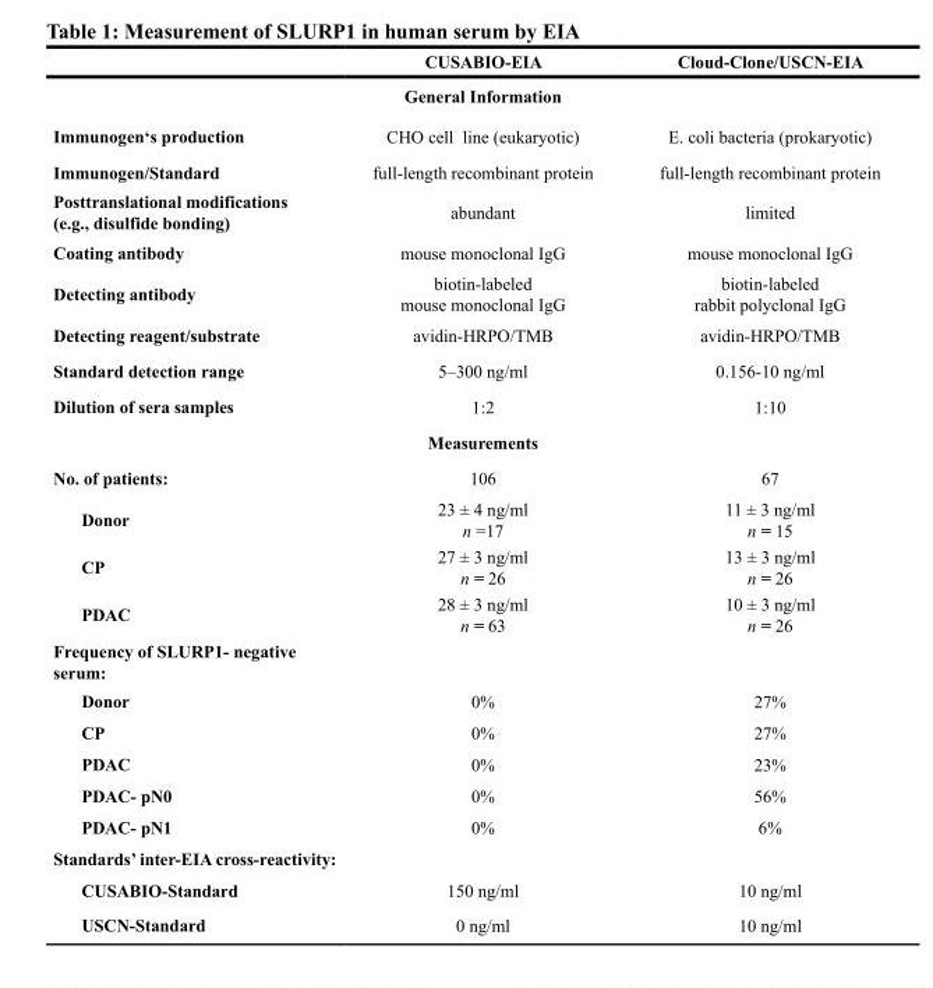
<table><thead><tr><td></td><td>CUSABIO-EIA</td><td>Cloud-Clone/USCN-EIA</td></tr></thead><tbody><tr><td></td><td>General Information</td><td></td></tr><tr><td>Immunogen‘s production</td><td>CHO cell line (eukaryotic)</td><td>E. coli bacteria (prokaryotic)</td></tr><tr><td>Immunogen/Standard</td><td>full-length recombinant protein</td><td>full-length recombinant protein</td></tr><tr><td>Posttranslational modifications (e.g., disulfide bonding)</td><td>abundant</td><td>limited</td></tr><tr><td>Coating antibody</td><td>mouse monoclonal IgG</td><td>mouse monoclonal IgG</td></tr><tr><td>Detecting antibody</td><td>biotin-labeled mouse monoclonal IgG</td><td>biotin-labeled rabbit polyclonal IgG</td></tr><tr><td>Detecting reagent/substrate</td><td>avidin-HRPO/TMB</td><td>avidin-HRPO/TMB</td></tr><tr><td>Standard detection range</td><td>5–300 ng/ml</td><td>0.156-10 ng/ml</td></tr><tr><td rowspan="2">Dilution of sera samples</td><td>1:2</td><td>1:10</td></tr><tr><td>Measurements</td><td></td></tr><tr><td>No. of patients:</td><td>106</td><td>67</td></tr><tr><td>Donor</td><td>23 ± 4 ng/ml n =17</td><td>11 ± 3 ng/ml n = 15</td></tr><tr><td>CP</td><td>27 ± 3 ng/ml n = 26</td><td>13 ± 3 ng/ml n = 26</td></tr><tr><td>PDAC</td><td>28 ± 3 ng/ml n = 63</td><td>10 ± 3 ng/ml n = 26</td></tr><tr><td colspan="3">Frequency of SLURP1- negative serum:</td></tr><tr><td>Donor</td><td>0%</td><td>27%</td></tr><tr><td>CP</td><td>0%</td><td>27%</td></tr><tr><td>PDAC</td><td>0%</td><td>23%</td></tr><tr><td>PDAC- pN0</td><td>0%</td><td>56%</td></tr><tr><td>PDAC- pN1</td><td>0%</td><td>6%</td></tr><tr><td colspan="3">Standards’ inter-EIA cross-reactivity:</td></tr><tr><td>CUSABIO-Standard</td><td>150 ng/ml</td><td>10 ng/ml</td></tr><tr><td>USCN-Standard</td><td>0 ng/ml</td><td>10 ng/ml</td></tr></tbody></table>